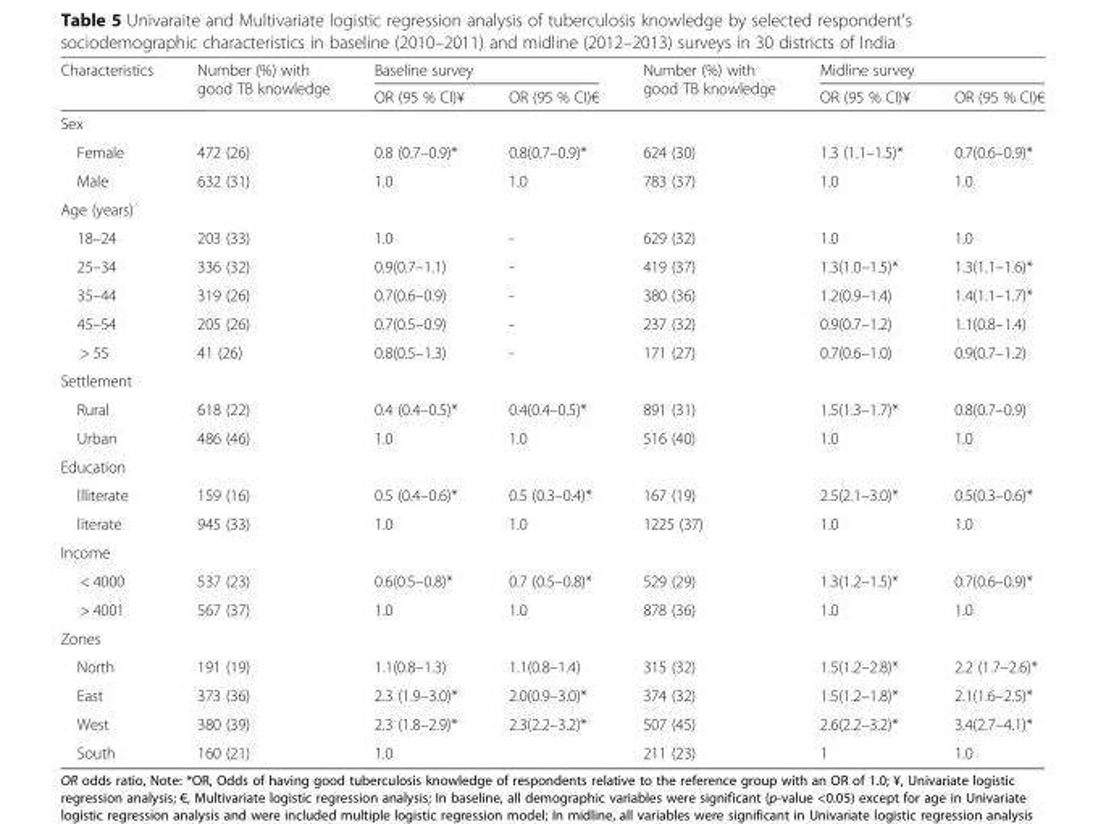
<table><thead><tr><td rowspan="2">Characteristics</td><td rowspan="2">Number (%) with good TB knowledge</td><td colspan="2">Baseline survey</td><td rowspan="2">Number (%) with good TB knowledge</td><td colspan="2">Midline survey</td></tr><tr><td>OR (95 % CI)¥</td><td>OR (95 % CI)€</td><td>OR (95 % CI)¥</td><td>OR (95 % CI)€</td></tr></thead><tbody><tr><td colspan="7">Sex</td></tr><tr><td>Female</td><td>472 (26)</td><td>0.8 (0.7–0.9)*</td><td>0.8(0.7–0.9)*</td><td>624 (30)</td><td>1.3 (1.1–1.5)*</td><td>0.7(0.6–0.9)*</td></tr><tr><td>Male</td><td>632 (31)</td><td>1.0</td><td>1.0</td><td>783 (37)</td><td>1.0</td><td>1.0</td></tr><tr><td colspan="7">Age (years)</td></tr><tr><td>18–24</td><td>203 (33)</td><td>1.0</td><td>-</td><td>629 (32)</td><td>1.0</td><td>1.0</td></tr><tr><td>25–34</td><td>336 (32)</td><td>0.9(0.7–1.1)</td><td>-</td><td>419 (37)</td><td>1.3(1.0–1.5)*</td><td>1.3(1.1–1.6)*</td></tr><tr><td>35–44</td><td>319 (26)</td><td>0.7(0.6–0.9)</td><td>-</td><td>380 (36)</td><td>1.2(0.9–1.4)</td><td>1.4(1.1–1.7)*</td></tr><tr><td>45–54</td><td>205 (26)</td><td>0.7(0.5–0.9)</td><td>-</td><td>237 (32)</td><td>0.9(0.7–1.2)</td><td>1.1(0.8–1.4)</td></tr><tr><td>&gt; 55</td><td>41 (26)</td><td>0.8(0.5–1.3)</td><td>-</td><td>171 (27)</td><td>0.7(0.6–1.0)</td><td>0.9(0.7–1.2)</td></tr><tr><td colspan="7">Settlement</td></tr><tr><td>Rural</td><td>618 (22)</td><td>0.4 (0.4–0.5)*</td><td>0.4(0.4–0.5)*</td><td>891 (31)</td><td>1.5(1.3–1.7)*</td><td>0.8(0.7–0.9)</td></tr><tr><td>Urban</td><td>486 (46)</td><td>1.0</td><td>1.0</td><td>516 (40)</td><td>1.0</td><td>1.0</td></tr><tr><td colspan="7">Education</td></tr><tr><td>Illiterate</td><td>159 (16)</td><td>0.5 (0.4–0.6)*</td><td>0.5 (0.3–0.4)*</td><td>167 (19)</td><td>2.5(2.1–3.0)*</td><td>0.5(0.3–0.6)*</td></tr><tr><td>literate</td><td>945 (33)</td><td>1.0</td><td>1.0</td><td>1225 (37)</td><td>1.0</td><td>1.0</td></tr><tr><td colspan="7">Income</td></tr><tr><td>&lt; 4000</td><td>537 (23)</td><td>0.6(0.5–0.8)*</td><td>0.7 (0.5–0.8)*</td><td>529 (29)</td><td>1.3(1.2–1.5)*</td><td>0.7(0.6–0.9)*</td></tr><tr><td>&gt; 4001</td><td>567 (37)</td><td>1.0</td><td>1.0</td><td>878 (36)</td><td>1.0</td><td>1.0</td></tr><tr><td colspan="7">Zones</td></tr><tr><td>North</td><td>191 (19)</td><td>1.1(0.8–1.3)</td><td>1.1(0.8–1.4)</td><td>315 (32)</td><td>1.5(1.2–2.8)*</td><td>2.2 (1.7–2.6)*</td></tr><tr><td>East</td><td>373 (36)</td><td>2.3 (1.9–3.0)*</td><td>2.0(0.9–3.0)*</td><td>374 (32)</td><td>1.5(1.2–1.8)*</td><td>2.1(1.6–2.5)*</td></tr><tr><td>West</td><td>380 (39)</td><td>2.3 (1.8–2.9)*</td><td>2.3(2.2–3.2)*</td><td>507 (45)</td><td>2.6(2.2–3.2)*</td><td>3.4(2.7–4.1)*</td></tr><tr><td>South</td><td>160 (21)</td><td>1.0</td><td></td><td>211 (23)</td><td>1</td><td>1.0</td></tr></tbody></table>